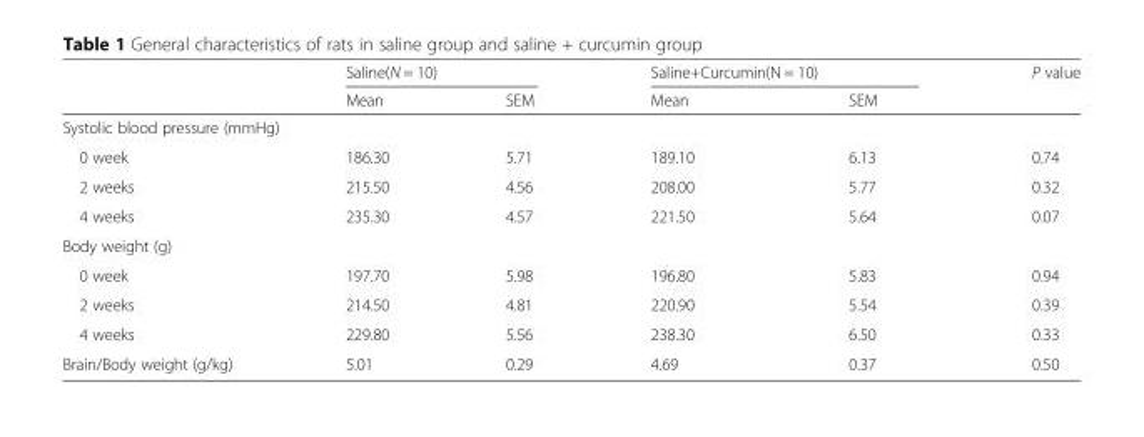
<table><thead><tr><td rowspan="2"></td><td colspan="2">Saline(N = 10)</td><td colspan="2">Saline+Curcumin(N = 10)</td><td rowspan="2">P value</td></tr><tr><td>Mean</td><td>SEM</td><td>Mean</td><td>SEM</td></tr></thead><tbody><tr><td colspan="6">Systolic blood pressure (mmHg)</td></tr><tr><td>0 week</td><td>186.30</td><td>5.71</td><td>189.10</td><td>6.13</td><td>0.74</td></tr><tr><td>2 weeks</td><td>215.50</td><td>4.56</td><td>208.00</td><td>5.77</td><td>0.32</td></tr><tr><td>4 weeks</td><td>235.30</td><td>4.57</td><td>221.50</td><td>5.64</td><td>0.07</td></tr><tr><td colspan="6">Body weight (g)</td></tr><tr><td>0 week</td><td>197.70</td><td>5.98</td><td>196.80</td><td>5.83</td><td>0.94</td></tr><tr><td>2 weeks</td><td>214.50</td><td>4.81</td><td>220.90</td><td>5.54</td><td>0.39</td></tr><tr><td>4 weeks</td><td>229.80</td><td>5.56</td><td>238.30</td><td>6.50</td><td>0.33</td></tr><tr><td>Brain/Body weight (g/kg)</td><td>5.01</td><td>0.29</td><td>4.69</td><td>0.37</td><td>0.50</td></tr></tbody></table>